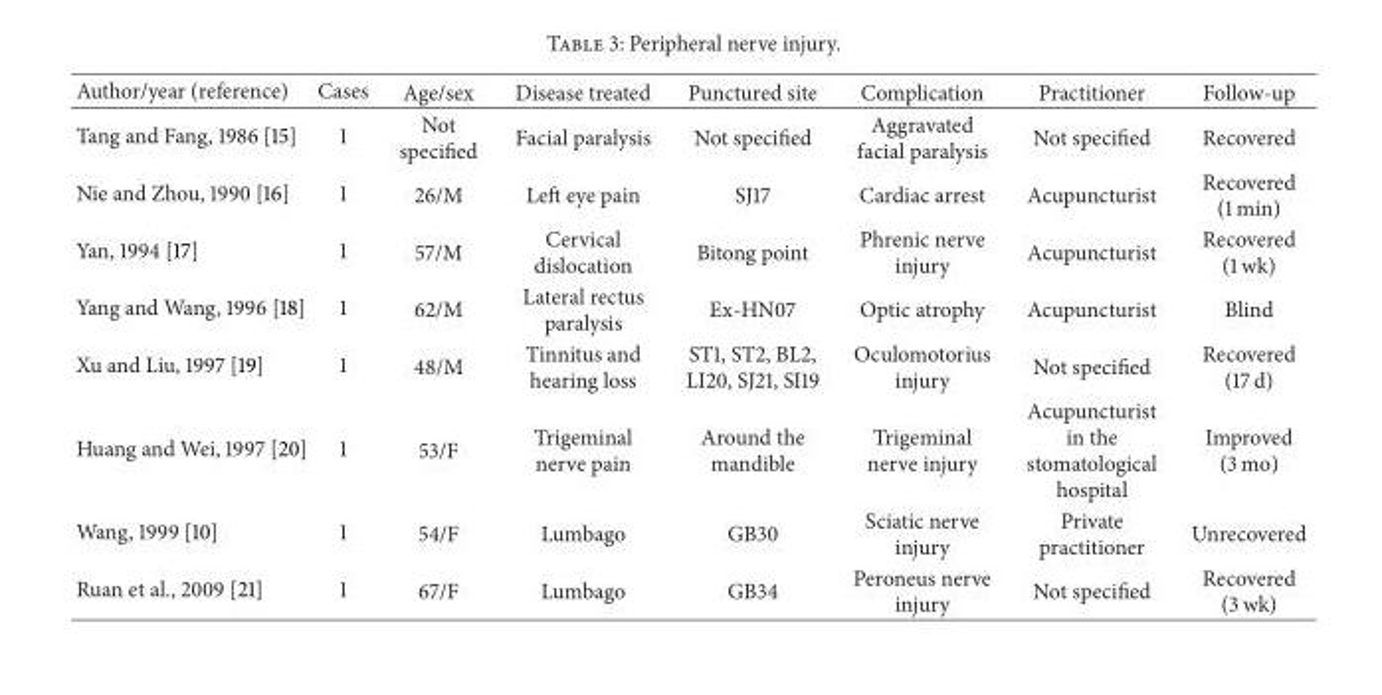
<table><thead><tr><td>Author/year (reference)</td><td>Cases</td><td>Age/sex</td><td>Disease treated</td><td>Punctured site</td><td>Complication</td><td>Practitioner</td><td>Follow-up</td></tr></thead><tbody><tr><td>Tang and Fang, 1986 [15]</td><td>1</td><td>Not specified</td><td>Facial paralysis</td><td>Not specified</td><td>Aggravated facial paralysis</td><td>Not specified</td><td>Recovered</td></tr><tr><td>Nie and Zhou, 1990 [16]</td><td>1</td><td>26/M</td><td>Left eye pain</td><td>SJ17</td><td>Cardiac arrest</td><td>Acupuncturist</td><td>Recovered (1 min)</td></tr><tr><td>Yan, 1994 [17]</td><td>1</td><td>57/M</td><td>Cervical dislocation</td><td>Bitong point</td><td>Phrenic nerve injury</td><td>Acupuncturist</td><td>Recovered (1 wk)</td></tr><tr><td>Yang and Wang, 1996 [18]</td><td>1</td><td>62/M</td><td>Lateral rectus paralysis</td><td>Ex-HN07</td><td>Optic atrophy</td><td>Acupuncturist</td><td>Blind</td></tr><tr><td>Xu and Liu, 1997 [19]</td><td>1</td><td>48/M</td><td>Tinnitus and hearing loss</td><td>ST1, ST2, BL2, LI20, SJ21, SI19</td><td>Oculomotorius injury</td><td>Not specified</td><td>Recovered (17 d)</td></tr><tr><td>Huang and Wei, 1997 [20]</td><td>1</td><td>53/F</td><td>Trigeminal nerve pain</td><td>Around the mandible</td><td>Trigeminal nerve injury</td><td>Acupuncturist in the stomatological hospital</td><td>Improved (3 mo)</td></tr><tr><td>Wang, 1999 [10]</td><td>1</td><td>54/F</td><td>Lumbago</td><td>GB30</td><td>Sciatic nerve injury</td><td>Private practitioner</td><td>Unrecovered</td></tr><tr><td>Ruan et al., 2009 [21]</td><td>1</td><td>67/F</td><td>Lumbago</td><td>GB34</td><td>Peroneus nerve injury</td><td>Not specified</td><td>Recovered (3 wk)</td></tr></tbody></table>